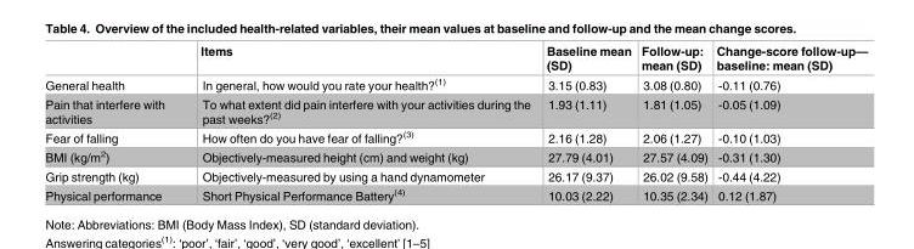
<table><thead><tr><td></td><td>Items</td><td>Baseline mean (SD)</td><td>Follow-up: mean (SD)</td><td>Change-score follow-up— baseline: mean (SD)</td></tr></thead><tbody><tr><td>General health</td><td>In general, how would you rate your health?<sup>(1)</sup></td><td>3.15 (0.83)</td><td>3.08 (0.80)</td><td>-0.11 (0.76)</td></tr><tr><td>Pain that interfere with activities</td><td>To what extent did pain interfere with your activities during the past weeks?<sup>(2)</sup></td><td>1.93 (1.11)</td><td>1.81 (1.05)</td><td>-0.05 (1.09)</td></tr><tr><td>Fear of falling</td><td>How often do you have fear of falling?<sup>(3)</sup></td><td>2.16 (1.28)</td><td>2.06 (1.27)</td><td>-0.10 (1.03)</td></tr><tr><td>BMI (kg/m<sup>2</sup>)</td><td>Objectively-measured height (cm) and weight (kg)</td><td>27.79 (4.01)</td><td>27.57 (4.09)</td><td>-0.31 (1.30)</td></tr><tr><td>Grip strength (kg)</td><td>Objectively-measured by using a hand dynamometer</td><td>26.17 (9.37)</td><td>26.02 (9.58)</td><td>-0.44 (4.22)</td></tr><tr><td>Physical performance</td><td>Short Physical Performance Battery<sup>(4)</sup></td><td>10.03 (2.22)</td><td>10.35 (2.34)</td><td>0.12 (1.87)</td></tr></tbody></table>